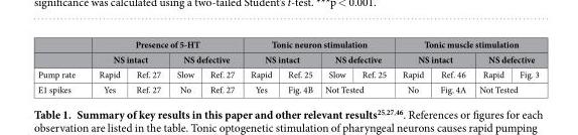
<table><thead><tr><td rowspan="3">Pump rate</td><td colspan="4">Presence of 5-HT</td><td colspan="4">Tonic neuron stimulation</td><td colspan="4">Tonic muscle stimulation</td></tr><tr><td colspan="2">NS intact</td><td colspan="2">NS defective</td><td colspan="2">NS intact</td><td colspan="2">NS defective</td><td colspan="2">NS intact</td><td colspan="2">NS defective</td></tr><tr><td>Rapid</td><td>Ref. 27</td><td>Slow</td><td>Ref. 27</td><td>Rapid</td><td>Ref. 25</td><td>Slow</td><td>Ref. 25</td><td>Rapid</td><td>Ref. 46</td><td>Rapid</td><td>Fig. 3</td></tr></thead><tbody><tr><td>E1 spikes</td><td>Yes</td><td>Ref. 27</td><td>No</td><td>Ref. 27</td><td>Yes</td><td>Fig. 4B</td><td colspan="2">Not Tested</td><td>No</td><td>Fig. 4A</td><td colspan="2">Not Tested</td></tr></tbody></table>